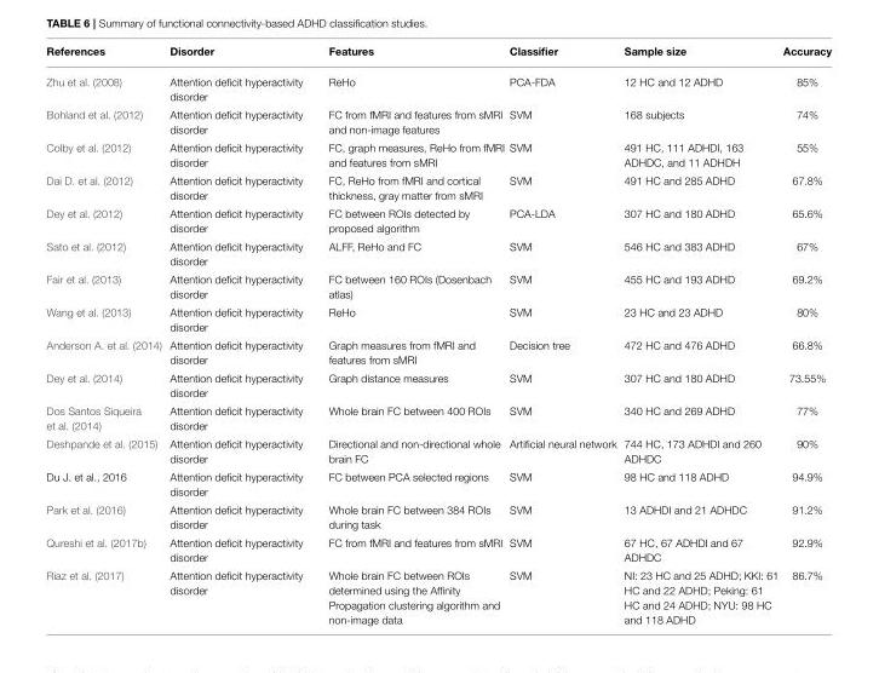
<table><thead><tr><td>References</td><td>Disorder</td><td>Features</td><td>Classifier</td><td>Sample size</td><td>Accuracy</td></tr></thead><tbody><tr><td>Zhu et al. (2008)</td><td>Attention deficit hyperactivity disorder</td><td>ReHo</td><td>PCA-FDA</td><td>12 HC and 12 ADHD</td><td>85%</td></tr><tr><td>Bohland et al. (2012)</td><td>Attention deficit hyperactivity disorder</td><td>FC from fMRI and features from sMRI and non-image features</td><td>SVM</td><td>168 subjects</td><td>74%</td></tr><tr><td>Colby et al. (2012)</td><td>Attention deficit hyperactivity disorder</td><td>FC, graph measures, ReHo from fMRI and features from sMRI</td><td>SVM</td><td>491 HC, 111 ADHDI, 163 ADHDC, and 11 ADHDH</td><td>55%</td></tr><tr><td>Dai D. et al. (2012)</td><td>Attention deficit hyperactivity disorder</td><td>FC, ReHo from fMRI and cortical thickness, gray matter from sMRI</td><td>SVM</td><td>491 HC and 285 ADHD</td><td>67.8%</td></tr><tr><td>Dey et al. (2012)</td><td>Attention deficit hyperactivity disorder</td><td>FC between ROIs detected by proposed algorithm</td><td>PCA-LDA</td><td>307 HC and 180 ADHD</td><td>65.6%</td></tr><tr><td>Sato et al. (2012)</td><td>Attention deficit hyperactivity disorder</td><td>ALFF, ReHo and FC</td><td>SVM</td><td>546 HC and 383 ADHD</td><td>67%</td></tr><tr><td>Fair et al. (2013)</td><td>Attention deficit hyperactivity disorder</td><td>FC between 160 ROIs (Dosenbach atlas)</td><td>SVM</td><td>455 HC and 193 ADHD</td><td>69.2%</td></tr><tr><td>Wang et al. (2013)</td><td>Attention deficit hyperactivity disorder</td><td>ReHo</td><td>SVM</td><td>23 HC and 23 ADHD</td><td>80%</td></tr><tr><td>Anderson A. et al. (2014)</td><td>Attention deficit hyperactivity disorder</td><td>Graph measures from fMRI and features from sMRI</td><td>Decision tree</td><td>472 HC and 476 ADHD</td><td>66.8%</td></tr><tr><td>Dey et al. (2014)</td><td>Attention deficit hyperactivity disorder</td><td>Graph distance measures</td><td>SVM</td><td>307 HC and 180 ADHD</td><td>73.55%</td></tr><tr><td>Dos Santos Siqueira et al. (2014)</td><td>Attention deficit hyperactivity disorder</td><td>Whole brain FC between 400 ROIs</td><td>SVM</td><td>340 HC and 269 ADHD</td><td>77%</td></tr><tr><td>Deshpande et al. (2015)</td><td>Attention deficit hyperactivity disorder</td><td>Directional and non-directional whole brain FC</td><td>Artificial neural network</td><td>744 HC, 173 ADHDI and 260 ADHDC</td><td>90%</td></tr><tr><td>Du J. et al., 2016</td><td>Attention deficit hyperactivity disorder</td><td>FC between PCA selected regions</td><td>SVM</td><td>98 HC and 118 ADHD</td><td>94.9%</td></tr><tr><td>Park et al. (2016)</td><td>Attention deficit hyperactivity disorder</td><td>Whole brain FC between 384 ROIs during task</td><td>SVM</td><td>13 ADHDI and 21 ADHDC</td><td>91.2%</td></tr><tr><td>Qureshi et al. (2017b)</td><td>Attention deficit hyperactivity disorder</td><td>FC from fMRI and features from sMRI</td><td>SVM</td><td>67 HC, 67 ADHDI and 67 ADHDC</td><td>92.9%</td></tr><tr><td>Riaz et al. (2017)</td><td>Attention deficit hyperactivity disorder</td><td>Whole brain FC between ROIs determined using the Affinity Propagation clustering algorithm and non-image data</td><td>SVM</td><td>NI: 23 HC and 25 ADHD; KKI: 61 HC and 22 ADHD; Peking: 61 HC and 24 ADHD; NYU: 98 HC and 118 ADHD</td><td>86.7%</td></tr></tbody></table>